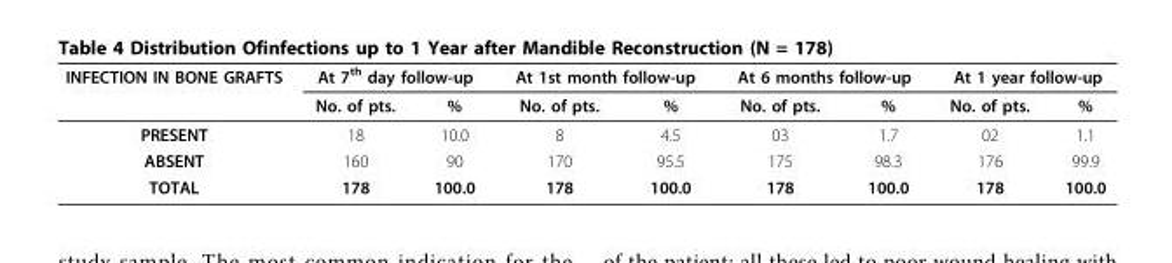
<table><thead><tr><td rowspan="2">INFECTION IN BONE GRAFTS</td><td colspan="2">At 7<sup>th</sup> day follow-up</td><td colspan="2">At 1st month follow-up</td><td colspan="2">At 6 months follow-up</td><td colspan="2">At 1 year follow-up</td></tr><tr><td>No. of pts.</td><td>%</td><td>No. of pts.</td><td>%</td><td>No. of pts.</td><td>%</td><td>No. of pts.</td><td>%</td></tr></thead><tbody><tr><td>PRESENT</td><td>18</td><td>10.0</td><td>8</td><td>4.5</td><td>03</td><td>1.7</td><td>02</td><td>1.1</td></tr><tr><td>ABSENT</td><td>160</td><td>90</td><td>170</td><td>95.5</td><td>175</td><td>98.3</td><td>176</td><td>99.9</td></tr><tr><td>TOTAL</td><td>178</td><td>100.0</td><td>178</td><td>100.0</td><td>178</td><td>100.0</td><td>178</td><td>100.0</td></tr></tbody></table>